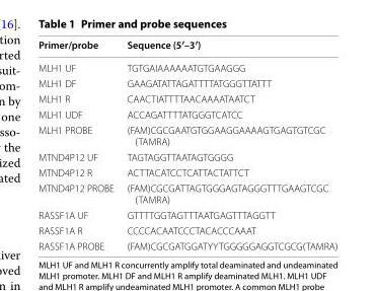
<table><thead><tr><td>Primer/probe</td><td>Sequence (5′–3′)</td></tr></thead><tbody><tr><td>MLH1 UF</td><td>TGTGAIAAAAAATGTGAAGGG</td></tr><tr><td>MLH1 DF</td><td>GAAGATATTAGATTTTATGGGTTATTT</td></tr><tr><td>MLH1 R</td><td>CAACTIATTTTAACAAAATAATCT</td></tr><tr><td>MLH1 UDF</td><td>ACCAGATTTTATGGGTCATCC</td></tr><tr><td>MLH1 PROBE</td><td>(FAM)CGCGAATGTGGAAGGAAAAGTGAGTGTCGC (TAMRA)</td></tr><tr><td>MTND4P12 UF</td><td>TAGTAGGTTAATAGTGGGG</td></tr><tr><td>MTND4P12 R</td><td>ACTTACATCCTCATTACTATTCT</td></tr><tr><td>MTND4P12 PROBE</td><td>(FAM)CGCGATTAGTGGGAGTAGGGTTTGAAGTCGC (TAMRA)</td></tr><tr><td>RASSF1A UF</td><td>GTTTTGGTAGTTTAATGAGTTTAGGTT</td></tr><tr><td>RASSF1A R</td><td>CCCCACAATCCCTACACCCAAAT</td></tr><tr><td>RASSF1A PROBE</td><td>(FAM)CGCGATGGATYYTGGGGGAGGTCGCG(TAMRA)</td></tr></tbody></table>